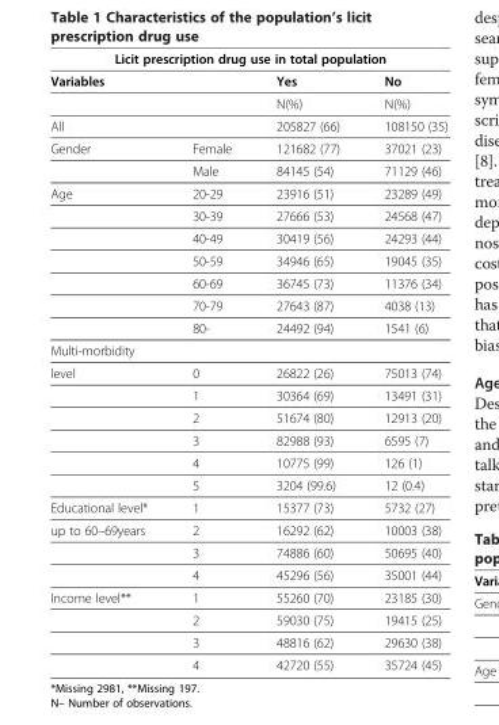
<table><thead><tr><td colspan="4">Licit prescription drug use in total population</td></tr><tr><td>Variables</td><td></td><td>Yes</td><td>No</td></tr></thead><tbody><tr><td></td><td></td><td>N(%)</td><td>N(%)</td></tr><tr><td>All</td><td></td><td>205827 (66)</td><td>108150 (35)</td></tr><tr><td rowspan="2">Gender</td><td>Female</td><td>121682 (77)</td><td>37021 (23)</td></tr><tr><td>Male</td><td>84145 (54)</td><td>71129 (46)</td></tr><tr><td rowspan="7">Age</td><td>20-29</td><td>23916 (51)</td><td>23289 (49)</td></tr><tr><td>30-39</td><td>27666 (53)</td><td>24568 (47)</td></tr><tr><td>40-49</td><td>30419 (56)</td><td>24293 (44)</td></tr><tr><td>50-59</td><td>34946 (65)</td><td>19045 (35)</td></tr><tr><td>60-69</td><td>36745 (73)</td><td>11376 (34)</td></tr><tr><td>70-79</td><td>27643 (87)</td><td>4038 (13)</td></tr><tr><td>80-</td><td>24492 (94)</td><td>1541 (6)</td></tr><tr><td colspan="4">Multi-morbidity</td></tr><tr><td rowspan="6">level</td><td>0</td><td>26822 (26)</td><td>75013 (74)</td></tr><tr><td>1</td><td>30364 (69)</td><td>13491 (31)</td></tr><tr><td>2</td><td>51674 (80)</td><td>12913 (20)</td></tr><tr><td>3</td><td>82988 (93)</td><td>6595 (7)</td></tr><tr><td>4</td><td>10775 (99)</td><td>126 (1)</td></tr><tr><td>5</td><td>3204 (99.6)</td><td>12 (0.4)</td></tr><tr><td>Educational level*</td><td>1</td><td>15377 (73)</td><td>5732 (27)</td></tr><tr><td rowspan="3">up to 60–69years</td><td>2</td><td>16292 (62)</td><td>10003 (38)</td></tr><tr><td>3</td><td>74886 (60)</td><td>50695 (40)</td></tr><tr><td>4</td><td>45296 (56)</td><td>35001 (44)</td></tr><tr><td rowspan="4">Income level**</td><td>1</td><td>55260 (70)</td><td>23185 (30)</td></tr><tr><td>2</td><td>59030 (75)</td><td>19415 (25)</td></tr><tr><td>3</td><td>48816 (62)</td><td>29630 (38)</td></tr><tr><td>4</td><td>42720 (55)</td><td>35724 (45)</td></tr></tbody></table>